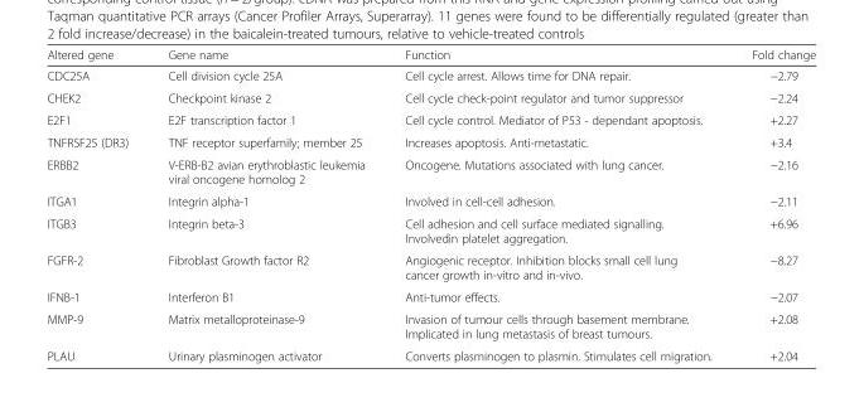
<table><thead><tr><td>Altered gene</td><td>Gene name</td><td>Function</td><td>Fold change</td></tr></thead><tbody><tr><td>CDC25A</td><td>Cell division cycle 25A</td><td>Cell cycle arrest. Allows time for DNA repair.</td><td>−2.79</td></tr><tr><td>CHEK2</td><td>Checkpoint kinase 2</td><td>Cell cycle check-point regulator and tumor suppressor</td><td>−2.24</td></tr><tr><td>E2F1</td><td>E2F transcription factor 1</td><td>Cell cycle control. Mediator of P53 - dependant apoptosis.</td><td>+2.27</td></tr><tr><td>TNFRSF25 (DR3)</td><td>TNF receptor superfamily; member 25</td><td>Increases apoptosis. Anti-metastatic.</td><td>+3.4</td></tr><tr><td>ERBB2</td><td>V-ERB-B2 avian erythroblastic leukemia viral oncogene homolog 2</td><td>Oncogene. Mutations associated with lung cancer.</td><td>−2.16</td></tr><tr><td>ITGA1</td><td>Integrin alpha-1</td><td>Involved in cell-cell adhesion.</td><td>−2.11</td></tr><tr><td>ITGB3</td><td>Integrin beta-3</td><td>Cell adhesion and cell surface mediated signalling. Involvedin platelet aggregation.</td><td>+6.96</td></tr><tr><td>FGFR-2</td><td>Fibroblast Growth factor R2</td><td>Angiogenic receptor. Inhibition blocks small cell lung cancer growth in-vitro and in-vivo.</td><td>−8.27</td></tr><tr><td>IFNB-1</td><td>Interferon B1</td><td>Anti-tumor effects.</td><td>−2.07</td></tr><tr><td>MMP-9</td><td>Matrix metalloproteinase-9</td><td>Invasion of tumour cells through basement membrane. Implicated in lung metastasis of breast tumours.</td><td>+2.08</td></tr><tr><td>PLAU</td><td>Urinary plasminogen activator</td><td>Converts plasminogen to plasmin. Stimulates cell migration.</td><td>+2.04</td></tr></tbody></table>